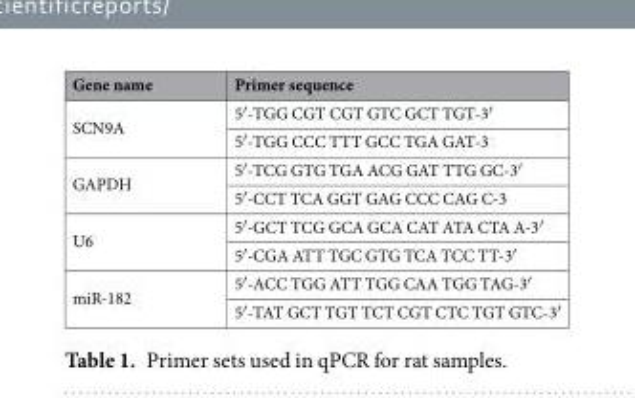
<table><thead><tr><td>Gene name</td><td>Primer sequence</td></tr></thead><tbody><tr><td rowspan="2">SCN9A</td><td>5′-TGG CGT CGT GTC GCT TGT-3′</td></tr><tr><td>5′-TGG CCC TTT GCC TGA GAT-3</td></tr><tr><td rowspan="2">GAPDH</td><td>5′-TCG GTG TGA ACG GAT TTG GC-3′</td></tr><tr><td>5′-CCT TCA GGT GAG CCC CAG C-3</td></tr><tr><td rowspan="2">U6</td><td>5′-GCT TCG GCA GCA CAT ATA CTA A-3′</td></tr><tr><td>5′-CGA ATT TGC GTG TCA TCC TT-3′</td></tr><tr><td rowspan="2">miR-182</td><td>5′-ACC TGG ATT TGG CAA TGG TAG-3′</td></tr><tr><td>5′-TAT GCT TGT TCT CGT CTC TGT GTC-3′</td></tr></tbody></table>